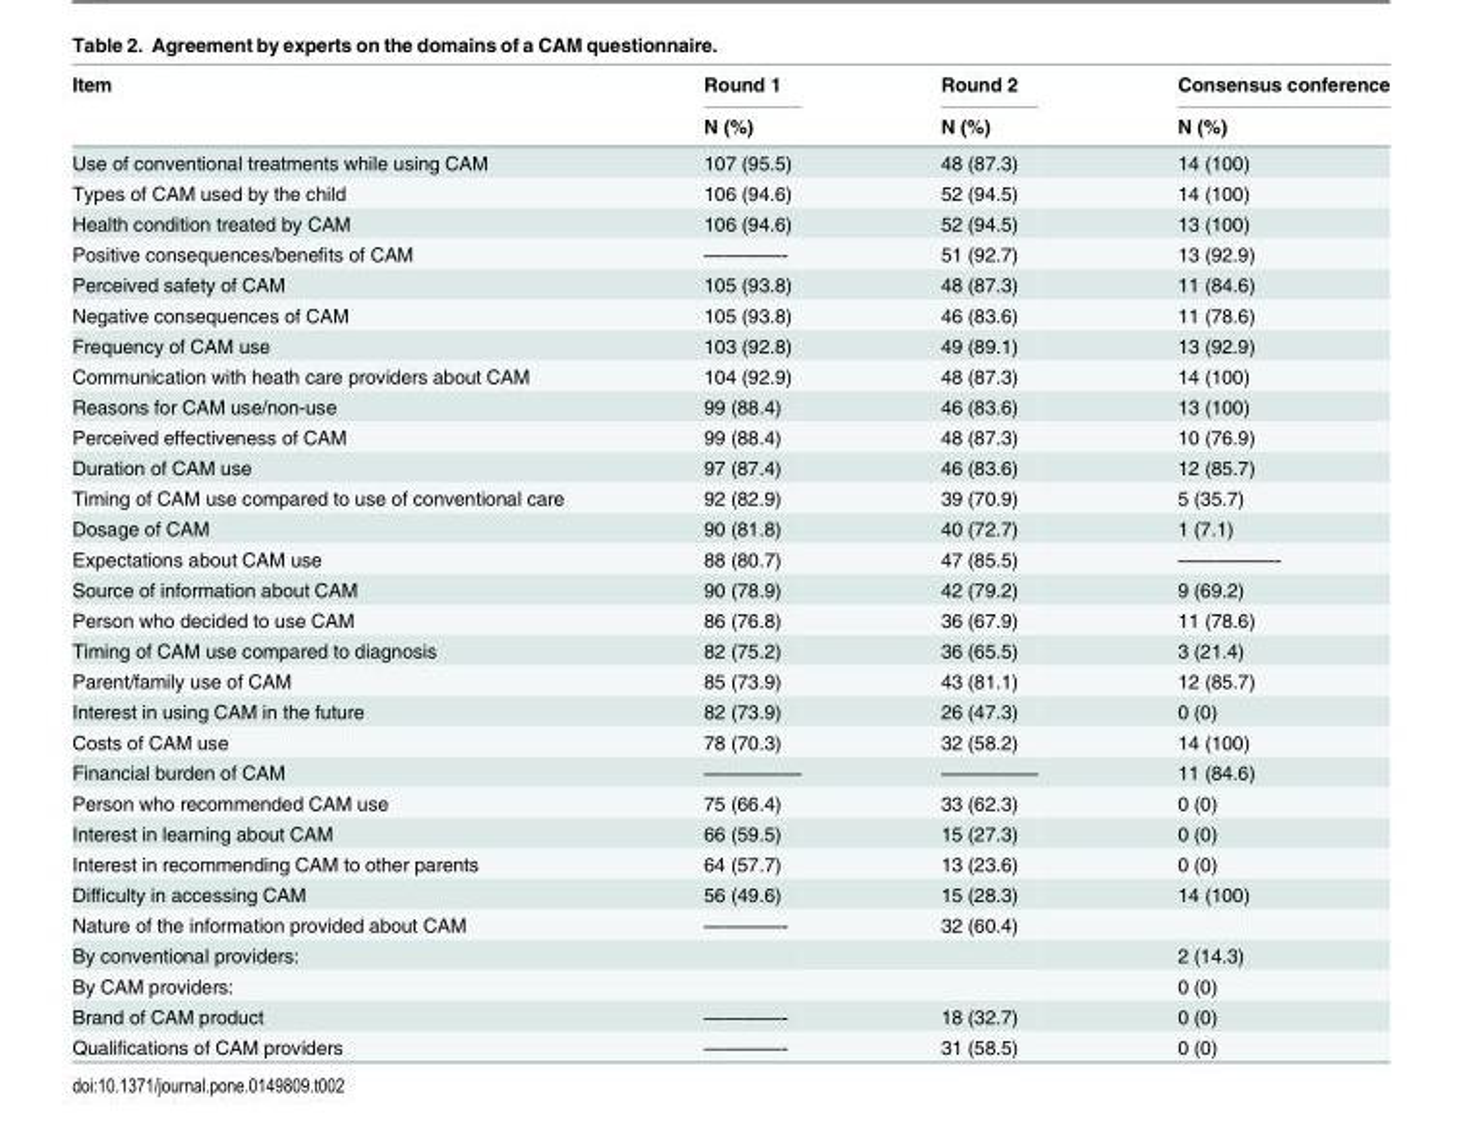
<table><thead><tr><td rowspan="2">Item</td><td rowspan="2">Round 1 N (%)</td><td rowspan="2">Round 2 N (%)</td><td rowspan="2">Consensus conference N (%)</td></tr><tr></tr></thead><tbody><tr><td>Use of conventional treatments while using CAM</td><td>107 (95.5)</td><td>48 (87.3)</td><td>14 (100)</td></tr><tr><td>Types of CAM used by the child</td><td>106 (94.6)</td><td>52 (94.5)</td><td>14 (100)</td></tr><tr><td>Health condition treated by CAM</td><td>106 (94.6)</td><td>52 (94.5)</td><td>13 (100)</td></tr><tr><td>Positive consequences/benefits of CAM</td><td>————-</td><td>51 (92.7)</td><td>13 (92.9)</td></tr><tr><td>Perceived safety of CAM</td><td>105 (93.8)</td><td>48 (87.3)</td><td>11 (84.6)</td></tr><tr><td>Negative consequences of CAM</td><td>105 (93.8)</td><td>46 (83.6)</td><td>11 (78.6)</td></tr><tr><td>Frequency of CAM use</td><td>103 (92.8)</td><td>49 (89.1)</td><td>13 (92.9)</td></tr><tr><td>Communication with heath care providers about CAM</td><td>104 (92.9)</td><td>48 (87.3)</td><td>14 (100)</td></tr><tr><td>Reasons for CAM use/non-use</td><td>99 (88.4)</td><td>46 (83.6)</td><td>13 (100)</td></tr><tr><td>Perceived effectiveness of CAM</td><td>99 (88.4)</td><td>48 (87.3)</td><td>10 (76.9)</td></tr><tr><td>Duration of CAM use</td><td>97 (87.4)</td><td>46 (83.6)</td><td>12 (85.7)</td></tr><tr><td>Timing of CAM use compared to use of conventional care</td><td>92 (82.9)</td><td>39 (70.9)</td><td>5 (35.7)</td></tr><tr><td>Dosage of CAM</td><td>90 (81.8)</td><td>40 (72.7)</td><td>1 (7.1)</td></tr><tr><td>Expectations about CAM use</td><td>88 (80.7)</td><td>47 (85.5)</td><td>—————-</td></tr><tr><td>Source of information about CAM</td><td>90 (78.9)</td><td>42 (79.2)</td><td>9 (69.2)</td></tr><tr><td>Person who decided to use CAM</td><td>86 (76.8)</td><td>36 (67.9)</td><td>11 (78.6)</td></tr><tr><td>Timing of CAM use compared to diagnosis</td><td>82 (75.2)</td><td>36 (65.5)</td><td>3 (21.4)</td></tr><tr><td>Parent/family use of CAM</td><td>85 (73.9)</td><td>43 (81.1)</td><td>12 (85.7)</td></tr><tr><td>Interest in using CAM in the future</td><td>82 (73.9)</td><td>26 (47.3)</td><td>0 (0)</td></tr><tr><td>Costs of CAM use</td><td>78 (70.3)</td><td>32 (58.2)</td><td>14 (100)</td></tr><tr><td>Financial burden of CAM</td><td>—————</td><td>—————</td><td>11 (84.6)</td></tr><tr><td>Person who recommended CAM use</td><td>75 (66.4)</td><td>33 (62.3)</td><td>0 (0)</td></tr><tr><td>Interest in learning about CAM</td><td>66 (59.5)</td><td>15 (27.3)</td><td>0 (0)</td></tr><tr><td>Interest in recommending CAM to other parents</td><td>64 (57.7)</td><td>13 (23.6)</td><td>0 (0)</td></tr><tr><td>Difficulty in accessing CAM</td><td>56 (49.6)</td><td>15 (28.3)</td><td>14 (100)</td></tr><tr><td>Nature of the information provided about CAM</td><td>————-</td><td>32 (60.4)</td><td></td></tr><tr><td>By conventional providers:</td><td></td><td></td><td>2 (14.3)</td></tr><tr><td>By CAM providers:</td><td></td><td></td><td>0 (0)</td></tr><tr><td>Brand of CAM product</td><td>————-</td><td>18 (32.7)</td><td>0 (0)</td></tr><tr><td>Qualifications of CAM providers</td><td>————-</td><td>31 (58.5)</td><td>0 (0)</td></tr></tbody></table>